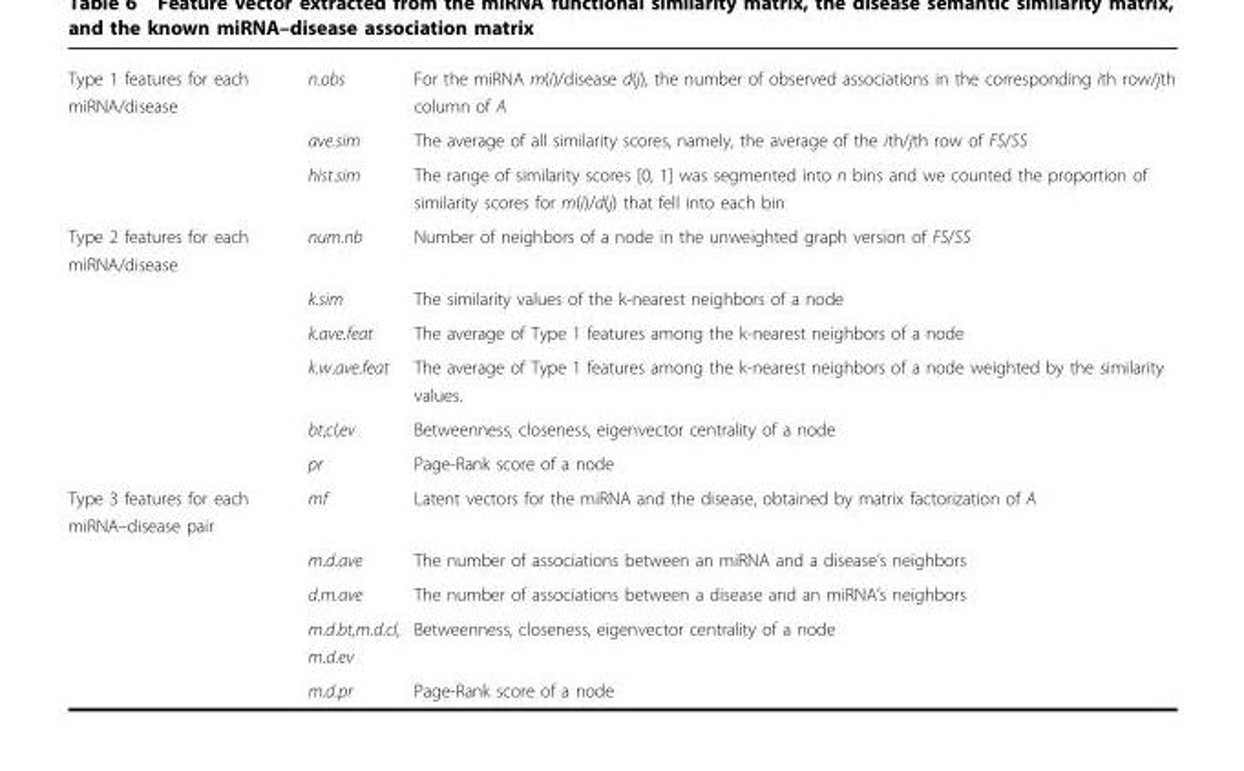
<table><tbody><tr><td rowspan="3">Type 1 features for each miRNA/disease</td><td>n.obs</td><td>For the miRNA m(i)/disease d(j), the number of observed associations in the corresponding ith row/jth column of A</td></tr><tr><td>ave.sim</td><td>The average of all similarity scores, namely, the average of the ith/jth row of FS/SS</td></tr><tr><td>hist.sim</td><td>The range of similarity scores [0, 1] was segmented into n bins and we counted the proportion of similarity scores for m(i)/d(j) that fell into each bin</td></tr><tr><td rowspan="6">Type 2 features for each miRNA/disease</td><td>num.nb</td><td>Number of neighbors of a node in the unweighted graph version of FS/SS</td></tr><tr><td>k.sim</td><td>The similarity values of the k-nearest neighbors of a node</td></tr><tr><td>k.ave.feat</td><td>The average of Type 1 features among the k-nearest neighbors of a node</td></tr><tr><td>k.w.ave.feat</td><td>The average of Type 1 features among the k-nearest neighbors of a node weighted by the similarity values.</td></tr><tr><td>bt,cl,ev</td><td>Betweenness, closeness, eigenvector centrality of a node</td></tr><tr><td>pr</td><td>Page-Rank score of a node</td></tr><tr><td rowspan="5">Type 3 features for each miRNA–disease pair</td><td>mf</td><td>Latent vectors for the miRNA and the disease, obtained by matrix factorization of A</td></tr><tr><td>m.d.ave</td><td>The number of associations between an miRNA and a disease’s neighbors</td></tr><tr><td>d.m.ave</td><td>The number of associations between a disease and an miRNA’s neighbors</td></tr><tr><td>m.d.bt,m.d.cl, m.d.ev</td><td>Betweenness, closeness, eigenvector centrality of a node</td></tr><tr><td>m.d.pr</td><td>Page-Rank score of a node</td></tr></tbody></table>